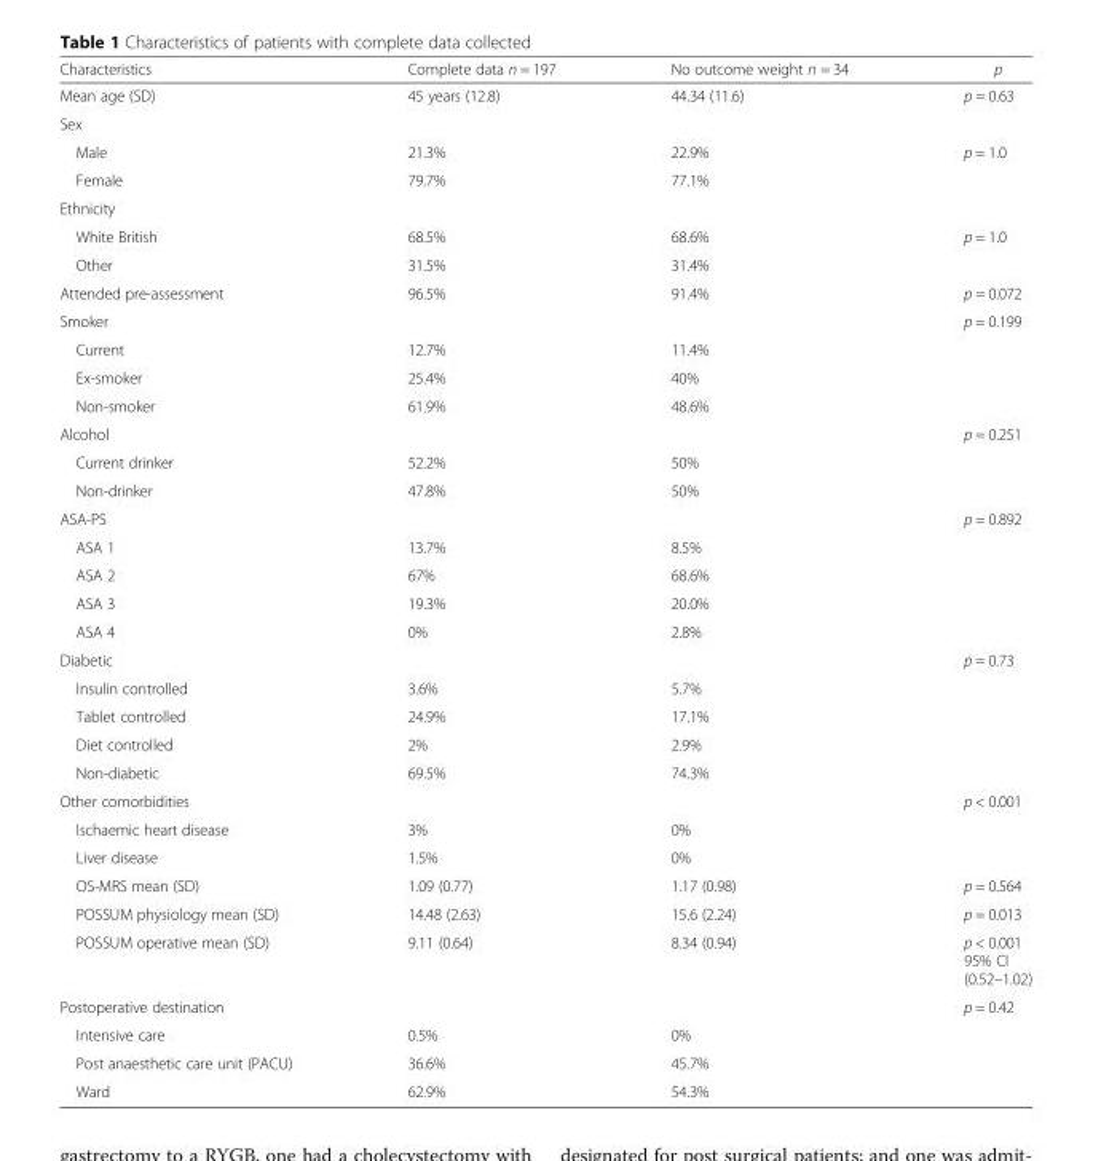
<table><thead><tr><td>Characteristics</td><td>Complete data n = 197</td><td>No outcome weight n = 34</td><td>p</td></tr></thead><tbody><tr><td>Mean age (SD)</td><td>45 years (12.8)</td><td>44.34 (11.6)</td><td>p = 0.63</td></tr><tr><td colspan="4">Sex</td></tr><tr><td>Male</td><td>21.3%</td><td>22.9%</td><td>p = 1.0</td></tr><tr><td>Female</td><td>79.7%</td><td>77.1%</td><td></td></tr><tr><td colspan="4">Ethnicity</td></tr><tr><td>White British</td><td>68.5%</td><td>68.6%</td><td>p = 1.0</td></tr><tr><td>Other</td><td>31.5%</td><td>31.4%</td><td></td></tr><tr><td>Attended pre-assessment</td><td>96.5%</td><td>91.4%</td><td>p = 0.072</td></tr><tr><td colspan="3">Smoker</td><td>p = 0.199</td></tr><tr><td>Current</td><td>12.7%</td><td>11.4%</td><td rowspan="3"></td></tr><tr><td>Ex-smoker</td><td>25.4%</td><td>40%</td></tr><tr><td>Non-smoker</td><td>61.9%</td><td>48.6%</td></tr><tr><td colspan="3">Alcohol</td><td>p = 0.251</td></tr><tr><td>Current drinker</td><td>52.2%</td><td>50%</td><td></td></tr><tr><td>Non-drinker</td><td>47.8%</td><td>50%</td><td></td></tr><tr><td colspan="3">ASA-PS</td><td>p = 0.892</td></tr><tr><td>ASA 1</td><td>13.7%</td><td>8.5%</td><td></td></tr><tr><td>ASA 2</td><td>67%</td><td>68.6%</td><td></td></tr><tr><td>ASA 3</td><td>19.3%</td><td>20.0%</td><td></td></tr><tr><td>ASA 4</td><td>0%</td><td>2.8%</td><td></td></tr><tr><td colspan="3">Diabetic</td><td>p = 0.73</td></tr><tr><td>Insulin controlled</td><td>3.6%</td><td>5.7%</td><td></td></tr><tr><td>Tablet controlled</td><td>24.9%</td><td>17.1%</td><td></td></tr><tr><td>Diet controlled</td><td>2%</td><td>2.9%</td><td></td></tr><tr><td>Non-diabetic</td><td>69.5%</td><td>74.3%</td><td></td></tr><tr><td colspan="3">Other comorbidities</td><td>p &lt; 0.001</td></tr><tr><td>Ischaemic heart disease</td><td>3%</td><td>0%</td><td></td></tr><tr><td>Liver disease</td><td>1.5%</td><td>0%</td><td></td></tr><tr><td>OS-MRS mean (SD)</td><td>1.09 (0.77)</td><td>1.17 (0.98)</td><td>p = 0.564</td></tr><tr><td>POSSUM physiology mean (SD)</td><td>14.48 (2.63)</td><td>15.6 (2.24)</td><td>p = 0.013</td></tr><tr><td>POSSUM operative mean (SD)</td><td>9.11 (0.64)</td><td>8.34 (0.94)</td><td>p &lt; 0.001 95% CI (0.52–1.02)</td></tr><tr><td colspan="3">Postoperative destination</td><td>p = 0.42</td></tr><tr><td>Intensive care</td><td>0.5%</td><td>0%</td><td></td></tr><tr><td>Post anaesthetic care unit (PACU)</td><td>36.6%</td><td>45.7%</td><td></td></tr><tr><td>Ward</td><td>62.9%</td><td>54.3%</td><td></td></tr></tbody></table>